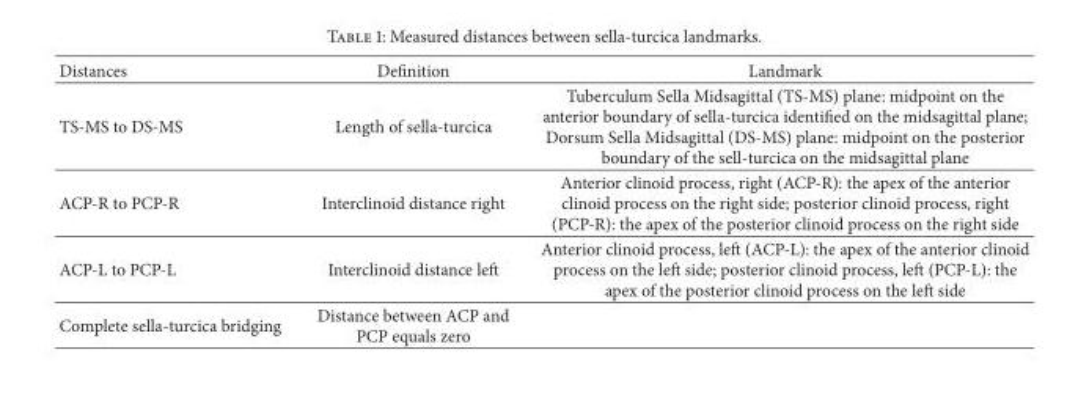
<table><thead><tr><td>Distances</td><td>Definition</td><td>Landmark</td></tr></thead><tbody><tr><td>TS-MS to DS-MS</td><td>Length of sella-turcica</td><td>Tuberculum Sella Midsagittal (TS-MS) plane: midpoint on the anterior boundary of sella-turcica identified on the midsagittal plane; Dorsum Sella Midsagittal (DS-MS) plane: midpoint on the posterior boundary of the sell-turcica on the midsagittal plane</td></tr><tr><td>ACP-R to PCP-R</td><td>Interclinoid distance right</td><td>Anterior clinoid process, right (ACP-R): the apex of the anterior clinoid process on the right side; posterior clinoid process, right (PCP-R): the apex of the posterior clinoid process on the right side</td></tr><tr><td>ACP-L to PCP-L</td><td>Interclinoid distance left</td><td>Anterior clinoid process, left (ACP-L): the apex of the anterior clinoid process on the left side; posterior clinoid process, left (PCP-L): the apex of the posterior clinoid process on the left side</td></tr><tr><td>Complete sella-turcica bridging</td><td>Distance between ACP and PCP equals zero</td><td></td></tr></tbody></table>